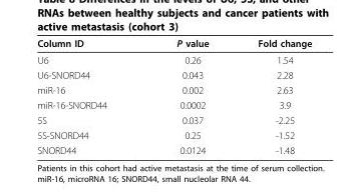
<table><thead><tr><td>Column ID</td><td>P value</td><td>Fold change</td></tr></thead><tbody><tr><td>U6</td><td>0.26</td><td>1.54</td></tr><tr><td>U6-SNORD44</td><td>0.043</td><td>2.28</td></tr><tr><td>miR-16</td><td>0.002</td><td>2.63</td></tr><tr><td>miR-16-SNORD44</td><td>0.0002</td><td>3.9</td></tr><tr><td>5S</td><td>0.037</td><td>-2.25</td></tr><tr><td>5S-SNORD44</td><td>0.25</td><td>-1.52</td></tr><tr><td>SNORD44</td><td>0.0124</td><td>-1.48</td></tr></tbody></table>